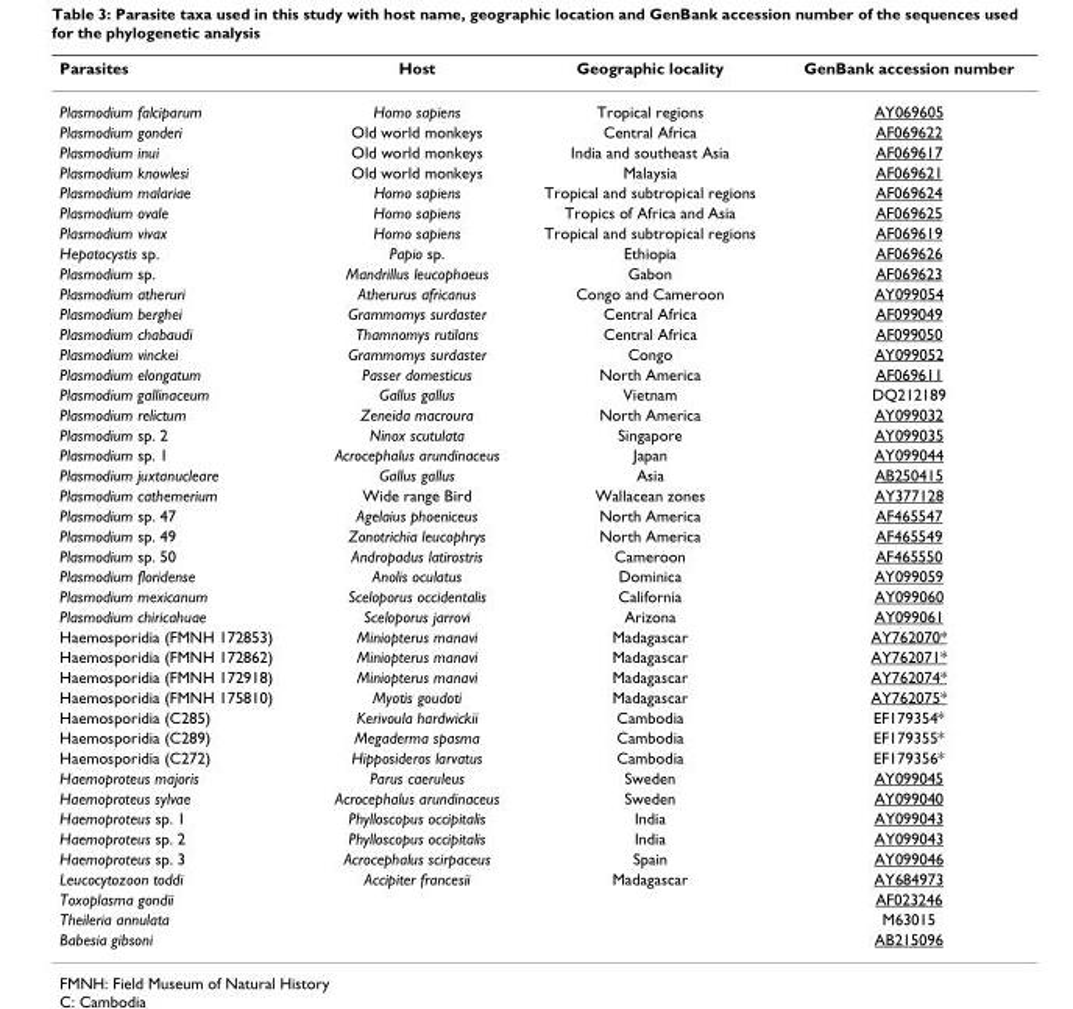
<table><thead><tr><td>Parasites</td><td>Host</td><td>Geographic locality</td><td>GenBank accession number</td></tr></thead><tbody><tr><td>Plasmodium falciparum</td><td>Homo sapiens</td><td>Tropical regions</td><td>AY069605</td></tr><tr><td>Plasmodium gonderi</td><td>Old world monkeys</td><td>Central Africa</td><td>AF069622</td></tr><tr><td>Plasmodium inui</td><td>Old world monkeys</td><td>India and southeast Asia</td><td>AF069617</td></tr><tr><td>Plasmodium knowlesi</td><td>Old world monkeys</td><td>Malaysia</td><td>AF069621</td></tr><tr><td>Plasmodium malariae</td><td>Homo sapiens</td><td>Tropical and subtropical regions</td><td>AF069624</td></tr><tr><td>Plasmodium ovale</td><td>Homo sapiens</td><td>Tropics of Africa and Asia</td><td>AF069625</td></tr><tr><td>Plasmodium vivax</td><td>Homo sapiens</td><td>Tropical and subtropical regions</td><td>AF069619</td></tr><tr><td>Hepatocystis sp.</td><td>Papio sp.</td><td>Ethiopia</td><td>AF069626</td></tr><tr><td>Plasmodium sp.</td><td>Mandrillus leucophaeus</td><td>Gabon</td><td>AF069623</td></tr><tr><td>Plasmodium atheruri</td><td>Atherurus africanus</td><td>Congo and Cameroon</td><td>AY099054</td></tr><tr><td>Plasmodium berghei</td><td>Grammomys surdaster</td><td>Central Africa</td><td>AF099049</td></tr><tr><td>Plasmodium chabaudi</td><td>Thamnomys rutilans</td><td>Central Africa</td><td>AF099050</td></tr><tr><td>Plasmodium vinckei</td><td>Grammomys surdaster</td><td>Congo</td><td>AY099052</td></tr><tr><td>Plasmodium elongatum</td><td>Passer domesticus</td><td>North America</td><td>AF069611</td></tr><tr><td>Plasmodium gallinaceum</td><td>Gallus gallus</td><td>Vietnam</td><td>DQ212189</td></tr><tr><td>Plasmodium relictum</td><td>Zeneida macroura</td><td>North America</td><td>AY099032</td></tr><tr><td>Plasmodium sp. 2</td><td>Ninox scutulata</td><td>Singapore</td><td>AY099035</td></tr><tr><td>Plasmodium sp. 1</td><td>Acrocephalus arundinaceus</td><td>Japan</td><td>AY099044</td></tr><tr><td>Plasmodium juxtanucleare</td><td>Gallus gallus</td><td>Asia</td><td>AB250415</td></tr><tr><td>Plasmodium cathemerium</td><td>Wide range Bird</td><td>Wallacean zones</td><td>AY377128</td></tr><tr><td>Plasmodium sp. 47</td><td>Agelaius phoeniceus</td><td>North America</td><td>AF465547</td></tr><tr><td>Plasmodium sp. 49</td><td>Zonotrichia leucophrys</td><td>North America</td><td>AF465549</td></tr><tr><td>Plasmodium sp. 50</td><td>Andropadus latirostris</td><td>Cameroon</td><td>AF465550</td></tr><tr><td>Plasmodium floridense</td><td>Anolis oculatus</td><td>Dominica</td><td>AY099059</td></tr><tr><td>Plasmodium mexicanum</td><td>Sceloporus occidentalis</td><td>California</td><td>AY099060</td></tr><tr><td>Plasmodium chiricahuae</td><td>Sceloporus jarrovi</td><td>Arizona</td><td>AY099061</td></tr><tr><td>Haemosporidia (FMNH 172853)</td><td>Miniopterus manavi</td><td>Madagascar</td><td>AY762070*</td></tr><tr><td>Haemosporidia (FMNH 172862)</td><td>Miniopterus manavi</td><td>Madagascar</td><td>AY762071*</td></tr><tr><td>Haemosporidia (FMNH 172918)</td><td>Miniopterus manavi</td><td>Madagascar</td><td>AY762074*</td></tr><tr><td>Haemosporidia (FMNH 175810)</td><td>Myotis goudoti</td><td>Madagascar</td><td>AY762075*</td></tr><tr><td>Haemosporidia (C285)</td><td>Kerivoula hardwickii</td><td>Cambodia</td><td>EF179354*</td></tr><tr><td>Haemosporidia (C289)</td><td>Megaderma spasma</td><td>Cambodia</td><td>EF179355*</td></tr><tr><td>Haemosporidia (C272)</td><td>Hipposideros larvatus</td><td>Cambodia</td><td>EF179356*</td></tr><tr><td>Haemoproteus majoris</td><td>Parus caeruleus</td><td>Sweden</td><td>AY099045</td></tr><tr><td>Haemoproteus sylvae</td><td>Acrocephalus arundinaceus</td><td>Sweden</td><td>AY099040</td></tr><tr><td>Haemoproteus sp. 1</td><td>Phylloscopus occipitalis</td><td>India</td><td>AY099043</td></tr><tr><td>Haemoproteus sp. 2</td><td>Phylloscopus occipitalis</td><td>India</td><td>AY099043</td></tr><tr><td>Haemoproteus sp. 3</td><td>Acrocephalus scirpaceus</td><td>Spain</td><td>AY099046</td></tr><tr><td>Leucocytozoon toddi</td><td>Accipiter francesii</td><td>Madagascar</td><td>AY684973</td></tr><tr><td>Toxoplasma gondii</td><td></td><td></td><td>AF023246</td></tr><tr><td>Theileria annulata</td><td></td><td></td><td>M63015</td></tr><tr><td>Babesia gibsoni</td><td></td><td></td><td>AB215096</td></tr></tbody></table>